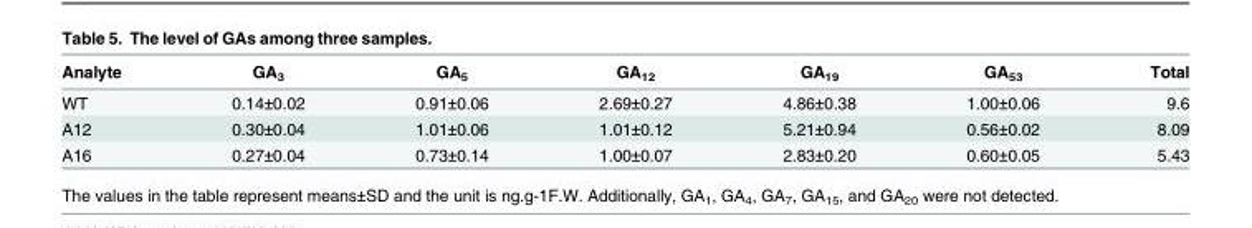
<table><thead><tr><td>Analyte</td><td>GA<sub>3</sub></td><td>GA<sub>5</sub></td><td>GA<sub>12</sub></td><td>GA<sub>19</sub></td><td>GA<sub>53</sub></td><td>Total</td></tr></thead><tbody><tr><td>WT</td><td>0.14±0.02</td><td>0.91±0.06</td><td>2.69±0.27</td><td>4.86±0.38</td><td>1.00±0.06</td><td>9.6</td></tr><tr><td>A12</td><td>0.30±0.04</td><td>1.01±0.06</td><td>1.01±0.12</td><td>5.21±0.94</td><td>0.56±0.02</td><td>8.09</td></tr><tr><td>A16</td><td>0.27±0.04</td><td>0.73±0.14</td><td>1.00±0.07</td><td>2.83±0.20</td><td>0.60±0.05</td><td>5.43</td></tr></tbody></table>